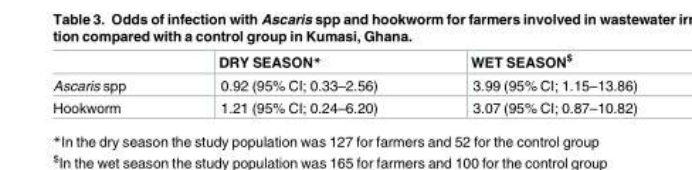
<table><thead><tr><td></td><td>DRY SEASON*</td><td>WET SEASON<sup>$</sup></td></tr></thead><tbody><tr><td>Ascaris spp</td><td>0.92 (95% CI; 0.33–2.56)</td><td>3.99 (95% CI; 1.15–13.86)</td></tr><tr><td>Hookworm</td><td>1.21 (95% CI; 0.24–6.20)</td><td>3.07 (95% CI; 0.87–10.82)</td></tr></tbody></table>